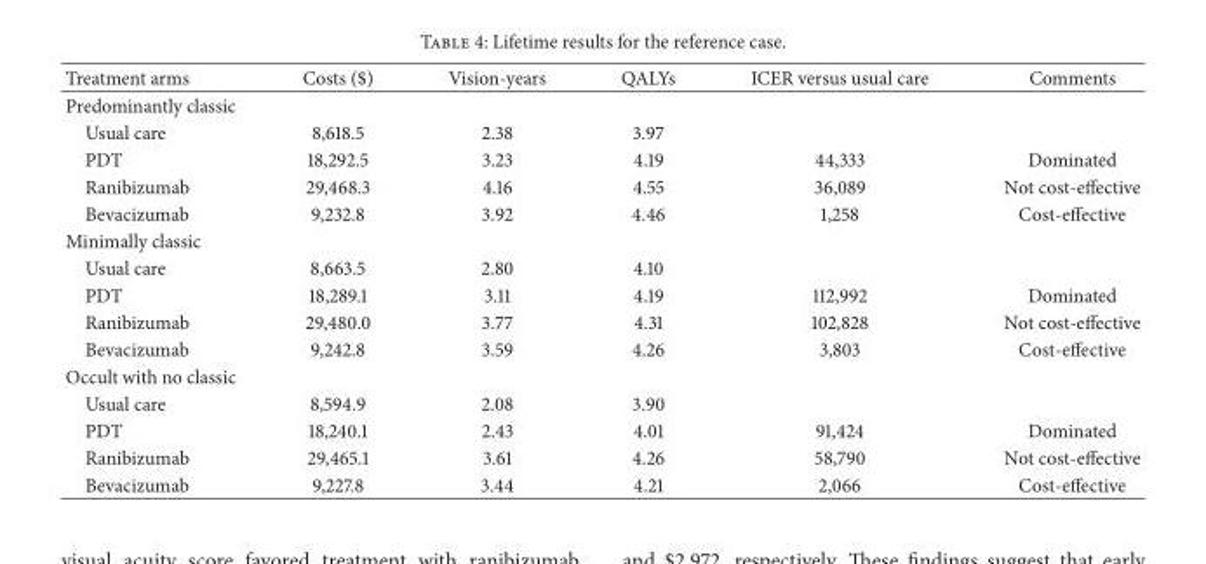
<table><thead><tr><td>Treatment arms</td><td>Costs ($)</td><td>Vision-years</td><td>QALYs</td><td>ICER versus usual care</td><td>Comments</td></tr></thead><tbody><tr><td colspan="6">Predominantly classic</td></tr><tr><td>Usual care</td><td>8,618.5</td><td>2.38</td><td>3.97</td><td></td><td></td></tr><tr><td>PDT</td><td>18,292.5</td><td>3.23</td><td>4.19</td><td>44,333</td><td>Dominated</td></tr><tr><td>Ranibizumab</td><td>29,468.3</td><td>4.16</td><td>4.55</td><td>36,089</td><td>Not cost-effective</td></tr><tr><td>Bevacizumab</td><td>9,232.8</td><td>3.92</td><td>4.46</td><td>1,258</td><td>Cost-effective</td></tr><tr><td colspan="6">Minimally classic</td></tr><tr><td>Usual care</td><td>8,663.5</td><td>2.80</td><td>4.10</td><td></td><td></td></tr><tr><td>PDT</td><td>18,289.1</td><td>3.11</td><td>4.19</td><td>112,992</td><td>Dominated</td></tr><tr><td>Ranibizumab</td><td>29,480.0</td><td>3.77</td><td>4.31</td><td>102,828</td><td>Not cost-effective</td></tr><tr><td>Bevacizumab</td><td>9,242.8</td><td>3.59</td><td>4.26</td><td>3,803</td><td>Cost-effective</td></tr><tr><td colspan="6">Occult with no classic</td></tr><tr><td>Usual care</td><td>8,594.9</td><td>2.08</td><td>3.90</td><td></td><td></td></tr><tr><td>PDT</td><td>18,240.1</td><td>2.43</td><td>4.01</td><td>91,424</td><td>Dominated</td></tr><tr><td>Ranibizumab</td><td>29,465.1</td><td>3.61</td><td>4.26</td><td>58,790</td><td>Not cost-effective</td></tr><tr><td>Bevacizumab</td><td>9,227.8</td><td>3.44</td><td>4.21</td><td>2,066</td><td>Cost-effective</td></tr></tbody></table>